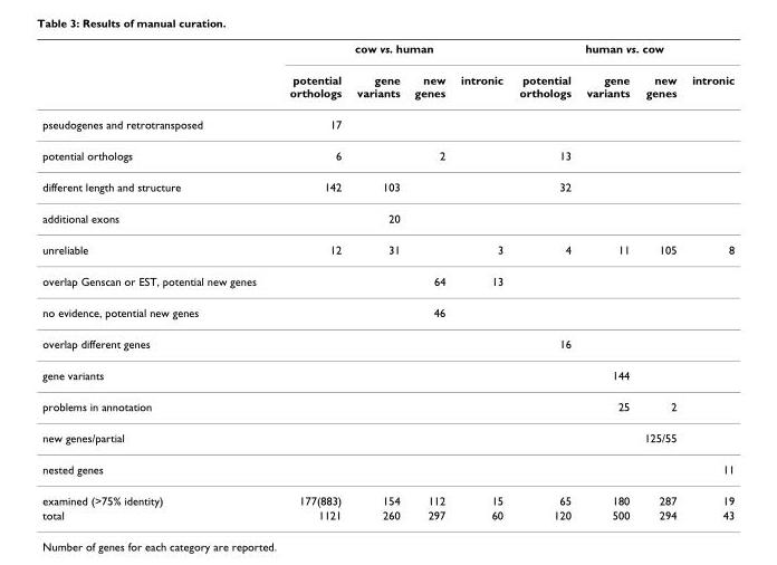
<table><thead><tr><td rowspan="2"></td><td colspan="4">cow vs. human</td><td colspan="4">human vs. cow</td></tr><tr><td>potential orthologs</td><td>gene variants</td><td>new genes</td><td>intronic</td><td>potential orthologs</td><td>gene variants</td><td>new genes</td><td>intronic</td></tr></thead><tbody><tr><td>pseudogenes and retrotransposed</td><td>17</td><td></td><td></td><td></td><td></td><td></td><td></td><td></td></tr><tr><td>potential orthologs</td><td>6</td><td></td><td>2</td><td></td><td>13</td><td></td><td></td><td></td></tr><tr><td>different length and structure</td><td>142</td><td>103</td><td></td><td></td><td>32</td><td></td><td></td><td></td></tr><tr><td>additional exons</td><td></td><td>20</td><td></td><td></td><td></td><td></td><td></td><td></td></tr><tr><td>unreliable</td><td>12</td><td>31</td><td></td><td>3</td><td>4</td><td>11</td><td>105</td><td>8</td></tr><tr><td>overlap Genscan or EST, potential new genes</td><td></td><td></td><td>64</td><td>13</td><td></td><td></td><td></td><td></td></tr><tr><td>no evidence, potential new genes</td><td></td><td></td><td>46</td><td></td><td></td><td></td><td></td><td></td></tr><tr><td>overlap different genes</td><td></td><td></td><td></td><td></td><td>16</td><td></td><td></td><td></td></tr><tr><td>gene variants</td><td></td><td></td><td></td><td></td><td></td><td>144</td><td></td><td></td></tr><tr><td>problems in annotation</td><td></td><td></td><td></td><td></td><td></td><td>25</td><td>2</td><td></td></tr><tr><td>new genes/partial</td><td></td><td></td><td></td><td></td><td></td><td></td><td>125/55</td><td></td></tr><tr><td>nested genes</td><td></td><td></td><td></td><td></td><td></td><td></td><td></td><td>11</td></tr><tr><td>examined (&gt;75% identity)</td><td>177(883)</td><td>154</td><td>112</td><td>15</td><td>65</td><td>180</td><td>287</td><td>19</td></tr><tr><td>total</td><td>1121</td><td>260</td><td>297</td><td>60</td><td>120</td><td>500</td><td>294</td><td>43</td></tr></tbody></table>